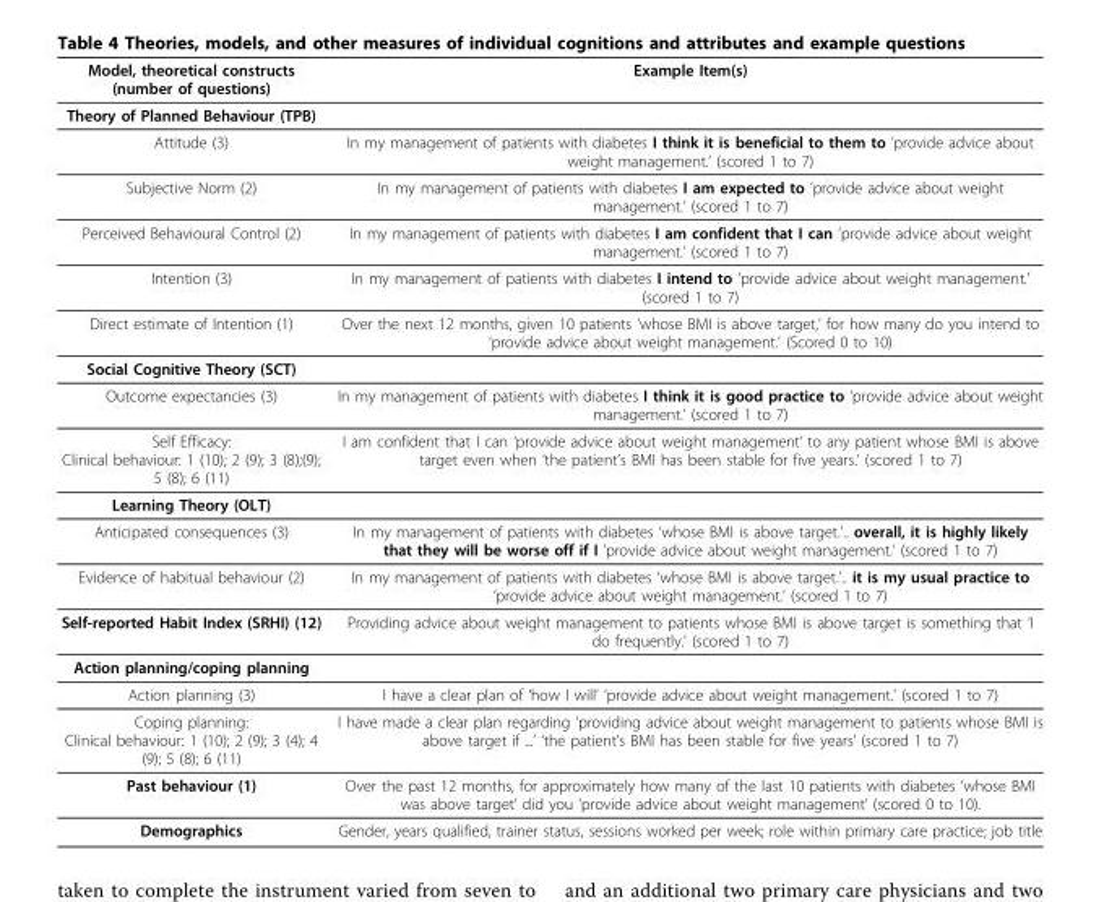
<table><thead><tr><td>Model, theoretical constructs (number of questions)</td><td>Example Item(s)</td></tr></thead><tbody><tr><td colspan="2">Theory of Planned Behaviour (TPB)</td></tr><tr><td>Attitude (3)</td><td>In my management of patients with diabetes I think it is beneficial to them to ’provide advice about weight management.’ (scored 1 to 7)</td></tr><tr><td>Subjective Norm (2)</td><td>In my management of patients with diabetes I am expected to ’provide advice about weight management.’ (scored 1 to 7)</td></tr><tr><td>Perceived Behavioural Control (2)</td><td>In my management of patients with diabetes I am confident that I can ’provide advice about weight management.’ (scored 1 to 7)</td></tr><tr><td>Intention (3)</td><td>In my management of patients with diabetes I intend to ’provide advice about weight management.’ (scored 1 to 7)</td></tr><tr><td>Direct estimate of Intention (1)</td><td>Over the next 12 months, given 10 patients ‘whose BMI is above target,’ for how many do you intend to ‘provide advice about weight management.’ (Scored 0 to 10)</td></tr><tr><td colspan="2">Social Cognitive Theory (SCT)</td></tr><tr><td>Outcome expectancies (3)</td><td>In my management of patients with diabetes I think it is good practice to ’provide advice about weight management.’ (scored 1 to 7)</td></tr><tr><td>Self Efficacy: Clinical behaviour: 1 (10); 2 (9); 3 (8);(9); 5 (8); 6 (11)</td><td>I am confident that I can ‘provide advice about weight management’ to any patient whose BMI is above target even when ‘the patient’s BMI has been stable for five years.’ (scored 1 to 7)</td></tr><tr><td colspan="2">Learning Theory (OLT)</td></tr><tr><td>Anticipated consequences (3)</td><td>In my management of patients with diabetes ‘whose BMI is above target.’.. overall, it is highly likely that they will be worse off if I ’provide advice about weight management.’ (scored 1 to 7)</td></tr><tr><td>Evidence of habitual behaviour (2)</td><td>In my management of patients with diabetes ‘whose BMI is above target.’.. it is my usual practice to ’provide advice about weight management.’ (scored 1 to 7)</td></tr><tr><td>Self-reported Habit Index (SRHI) (12)</td><td>Providing advice about weight management to patients whose BMI is above target is something that ‘I do frequently.’ (scored 1 to 7)</td></tr><tr><td colspan="2">Action planning/coping planning</td></tr><tr><td>Action planning (3)</td><td>I have a clear plan of ‘how I will’ ‘provide advice about weight management.’ (scored 1 to 7)</td></tr><tr><td>Coping planning: Clinical behaviour: 1 (10); 2 (9); 3 (4); 4 (9); 5 (8); 6 (11)</td><td>I have made a clear plan regarding ‘providing advice about weight management to patients whose BMI is above target if ...’ ‘the patient’s BMI has been stable for five years’ (scored 1 to 7)</td></tr><tr><td>Past behaviour (1)</td><td>Over the past 12 months, for approximately how many of the last 10 patients with diabetes ‘whose BMI was above target’ did you ‘provide advice about weight management’ (scored 0 to 10).</td></tr><tr><td>Demographics</td><td>Gender, years qualified, trainer status, sessions worked per week; role within primary care practice; job title</td></tr></tbody></table>